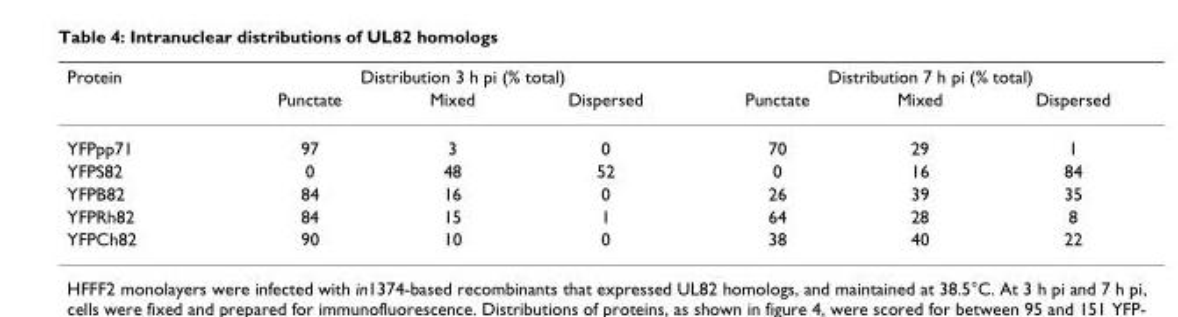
<table><thead><tr><td rowspan="2">Protein</td><td colspan="3">Distribution 3 h pi (% total)</td><td colspan="3">Distribution 7 h pi (% total)</td></tr><tr><td>Punctate</td><td>Mixed</td><td>Dispersed</td><td>Punctate</td><td>Mixed</td><td>Dispersed</td></tr></thead><tbody><tr><td>YFPpp71</td><td>97</td><td>3</td><td>0</td><td>70</td><td>29</td><td>1</td></tr><tr><td>YFPS82</td><td>0</td><td>48</td><td>52</td><td>0</td><td>16</td><td>84</td></tr><tr><td>YFPB82</td><td>84</td><td>16</td><td>0</td><td>26</td><td>39</td><td>35</td></tr><tr><td>YFPRh82</td><td>84</td><td>15</td><td>1</td><td>64</td><td>28</td><td>8</td></tr><tr><td>YFPCh82</td><td>90</td><td>10</td><td>0</td><td>38</td><td>40</td><td>22</td></tr></tbody></table>